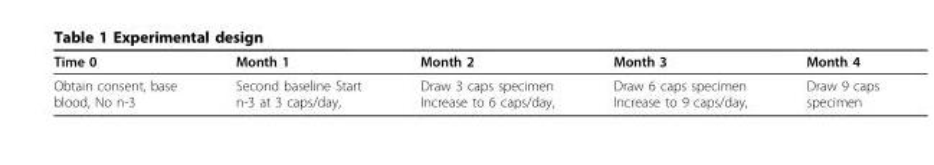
<table><thead><tr><td>Time 0</td><td>Month 1</td><td>Month 2</td><td>Month 3</td><td>Month 4</td></tr></thead><tbody><tr><td>Obtain consent, base blood, No n-3</td><td>Second baseline Start n-3 at 3 caps/day,</td><td>Draw 3 caps specimen Increase to 6 caps/day,</td><td>Draw 6 caps specimen Increase to 9 caps/day,</td><td>Draw 9 caps specimen</td></tr></tbody></table>